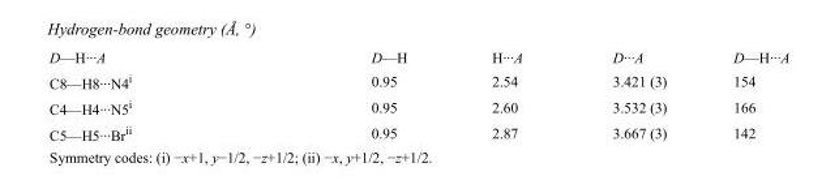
<table><tbody><tr><td>D—H···A</td><td>D—H</td><td>H···A</td><td>D···A</td><td>D—H···A</td></tr><tr><td>C8—H8···N4<sup>i</sup></td><td>0.95</td><td>2.54</td><td>3.421 (3)</td><td>154</td></tr><tr><td>C4—H4···N5<sup>i</sup></td><td>0.95</td><td>2.60</td><td>3.532 (3)</td><td>166</td></tr><tr><td>C5—H5···Br<sup>ii</sup></td><td>0.95</td><td>2.87</td><td>3.667 (3)</td><td>142</td></tr></tbody></table>